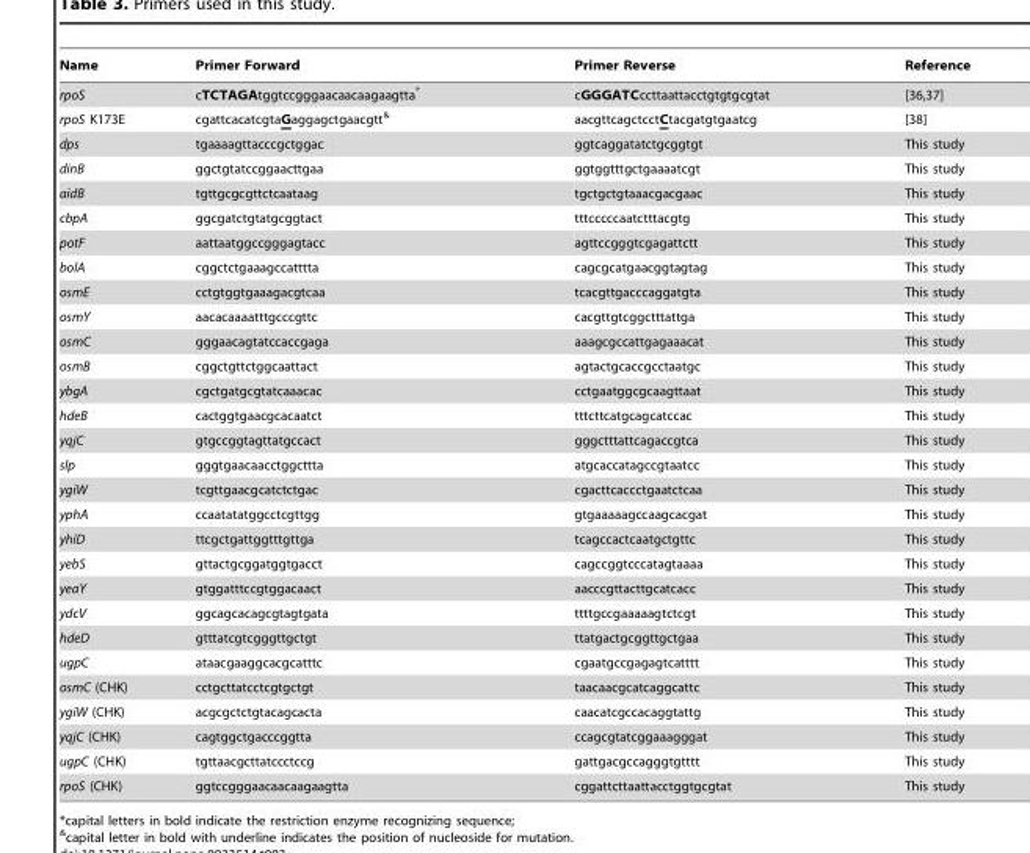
<table><thead><tr><td>Name</td><td>Primer Forward</td><td>Primer Reverse</td><td>Reference</td></tr></thead><tbody><tr><td>rpoS</td><td>cTCTAGAtggtccgggaacaacaagaagtta*</td><td>cGGGATCccttaattacctgtgtgcgtat</td><td>[36,37]</td></tr><tr><td>rpoS K173E</td><td>cgattcacatcgtaGaggagctgaacgtt&amp;</td><td>aacgttcagctcctCtacgatgtgaatcg</td><td>[38]</td></tr><tr><td>dps</td><td>tgaaaagttacccgctggac</td><td>ggtcaggatatctgcggtgt</td><td>This study</td></tr><tr><td>dinB</td><td>ggctgtatccggaacttgaa</td><td>ggtggtttgctgaaaatcgt</td><td>This study</td></tr><tr><td>aidB</td><td>tgttgcgcgttctcaataag</td><td>tgctgctgtaaacgacgaac</td><td>This study</td></tr><tr><td>cbpA</td><td>ggcgatctgtatgcggtact</td><td>tttcccccaatctttacgtg</td><td>This study</td></tr><tr><td>potF</td><td>aattaatggccgggagtacc</td><td>agttccgggtcgagattctt</td><td>This study</td></tr><tr><td>bolA</td><td>cggctctgaaagccatttta</td><td>cagcgcatgaacggtagtag</td><td>This study</td></tr><tr><td>osmE</td><td>cctgtggtgaaagacgtcaa</td><td>tcacgttgacccaggatgta</td><td>This study</td></tr><tr><td>osmY</td><td>aacacaaaatttgcccgttc</td><td>cacgttgtcggctttattga</td><td>This study</td></tr><tr><td>osmC</td><td>gggaacagtatccaccgaga</td><td>aaagcgccattgagaaacat</td><td>This study</td></tr><tr><td>osmB</td><td>cggctgttctggcaattact</td><td>agtactgcaccgcctaatgc</td><td>This study</td></tr><tr><td>ybgA</td><td>cgctgatgcgtatcaaacac</td><td>cctgaatggcgcaagttaat</td><td>This study</td></tr><tr><td>hdeB</td><td>cactggtgaacgcacaatct</td><td>tttcttcatgcagcatccac</td><td>This study</td></tr><tr><td>yqjC</td><td>gtgccggtagttatgccact</td><td>gggctttattcagaccgtca</td><td>This study</td></tr><tr><td>slp</td><td>gggtgaacaacctggcttta</td><td>atgcaccatagccgtaatcc</td><td>This study</td></tr><tr><td>ygiW</td><td>tcgttgaacgcatctctgac</td><td>cgacttcaccctgaatctcaa</td><td>This study</td></tr><tr><td>yphA</td><td>ccaatatatggcctcgttgg</td><td>gtgaaaaagccaagcacgat</td><td>This study</td></tr><tr><td>yhiD</td><td>ttcgctgattggtttgttga</td><td>tcagccactcaatgctgttc</td><td>This study</td></tr><tr><td>yebS</td><td>gttactgcggatggtgacct</td><td>cagccggtcccatagtaaaa</td><td>This study</td></tr><tr><td>yeaY</td><td>gtggatttccgtggacaact</td><td>aacccgttacttgcatcacc</td><td>This study</td></tr><tr><td>ydcV</td><td>ggcagcacagcgtagtgata</td><td>ttttgccgaaaaagtctcgt</td><td>This study</td></tr><tr><td>hdeD</td><td>gtttatcgtcgggttgctgt</td><td>ttatgactgcggttgctgaa</td><td>This study</td></tr><tr><td>ugpC</td><td>ataacgaaggcacgcatttc</td><td>cgaatgccgagagtcatttt</td><td>This study</td></tr><tr><td>osmC (CHK)</td><td>cctgcttatcctcgtgctgt</td><td>taacaacgcatcaggcattc</td><td>This study</td></tr><tr><td>ygiW (CHK)</td><td>acgcgctctgtacagcacta</td><td>caacatcgccacaggtattg</td><td>This study</td></tr><tr><td>yqjC (CHK)</td><td>cagtggctgacccggtta</td><td>ccagcgtatcggaaagggat</td><td>This study</td></tr><tr><td>ugpC (CHK)</td><td>tgttaacgcttatccctccg</td><td>gattgacgccagggtgtttt</td><td>This study</td></tr><tr><td>rpoS (CHK)</td><td>ggtccgggaacaacaagaagtta</td><td>cggattcttaattacctggtgcgtat</td><td>This study</td></tr></tbody></table>